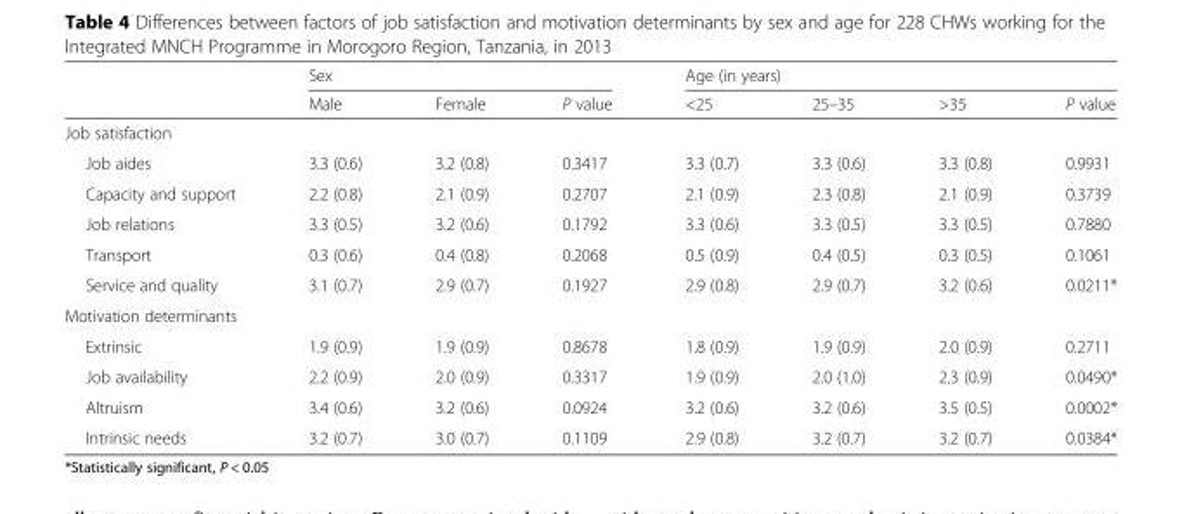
<table><thead><tr><td rowspan="2"></td><td colspan="3">Sex</td><td colspan="4">Age (in years)</td></tr><tr><td>Male</td><td>Female</td><td>P value</td><td>&lt;25</td><td>25–35</td><td>&gt;35</td><td>P value</td></tr></thead><tbody><tr><td colspan="8">Job satisfaction</td></tr><tr><td>Job aides</td><td>3.3 (0.6)</td><td>3.2 (0.8)</td><td>0.3417</td><td>3.3 (0.7)</td><td>3.3 (0.6)</td><td>3.3 (0.8)</td><td>0.9931</td></tr><tr><td>Capacity and support</td><td>2.2 (0.8)</td><td>2.1 (0.9)</td><td>0.2707</td><td>2.1 (0.9)</td><td>2.3 (0.8)</td><td>2.1 (0.9)</td><td>0.3739</td></tr><tr><td>Job relations</td><td>3.3 (0.5)</td><td>3.2 (0.6)</td><td>0.1792</td><td>3.3 (0.6)</td><td>3.3 (0.5)</td><td>3.3 (0.5)</td><td>0.7880</td></tr><tr><td>Transport</td><td>0.3 (0.6)</td><td>0.4 (0.8)</td><td>0.2068</td><td>0.5 (0.9)</td><td>0.4 (0.5)</td><td>0.3 (0.5)</td><td>0.1061</td></tr><tr><td>Service and quality</td><td>3.1 (0.7)</td><td>2.9 (0.7)</td><td>0.1927</td><td>2.9 (0.8)</td><td>2.9 (0.7)</td><td>3.2 (0.6)</td><td>0.0211*</td></tr><tr><td colspan="8">Motivation determinants</td></tr><tr><td>Extrinsic</td><td>1.9 (0.9)</td><td>1.9 (0.9)</td><td>0.8678</td><td>1.8 (0.9)</td><td>1.9 (0.9)</td><td>2.0 (0.9)</td><td>0.2711</td></tr><tr><td>Job availability</td><td>2.2 (0.9)</td><td>2.0 (0.9)</td><td>0.3317</td><td>1.9 (0.9)</td><td>2.0 (1.0)</td><td>2.3 (0.9)</td><td>0.0490*</td></tr><tr><td>Altruism</td><td>3.4 (0.6)</td><td>3.2 (0.6)</td><td>0.0924</td><td>3.2 (0.6)</td><td>3.2 (0.6)</td><td>3.5 (0.5)</td><td>0.0002*</td></tr><tr><td>Intrinsic needs</td><td>3.2 (0.7)</td><td>3.0 (0.7)</td><td>0.1109</td><td>2.9 (0.8)</td><td>3.2 (0.7)</td><td>3.2 (0.7)</td><td>0.0384*</td></tr></tbody></table>